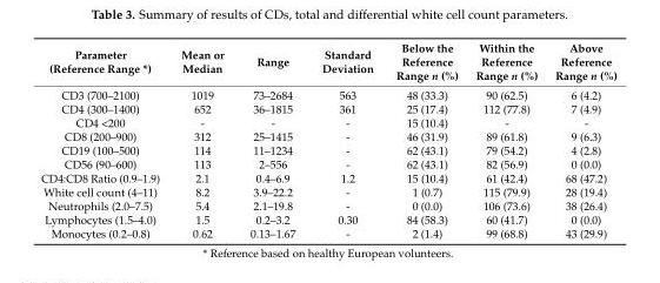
<table><thead><tr><td>Parameter (Reference Range *)</td><td>Mean or Median</td><td>Range</td><td>Standard Deviation</td><td>Below the Reference Range n (%)</td><td>Within the Reference Range n (%)</td><td>Above Reference Range n (%)</td></tr></thead><tbody><tr><td>CD3 (700–2100)</td><td>1019</td><td>73–2684</td><td>563</td><td>48 (33.3)</td><td>90 (62.5)</td><td>6 (4.2)</td></tr><tr><td>CD4 (300–1400)</td><td>652</td><td>36–1815</td><td>361</td><td>25 (17.4)</td><td>112 (77.8)</td><td>7 (4.9)</td></tr><tr><td>CD4 &lt;200</td><td>-</td><td>-</td><td>-</td><td>15 (10.4)</td><td>-</td><td>-</td></tr><tr><td>CD8 (200–900)</td><td>312</td><td>25–1415</td><td>-</td><td>46 (31.9)</td><td>89 (61.8)</td><td>9 (6.3)</td></tr><tr><td>CD19 (100–500)</td><td>114</td><td>11–1234</td><td>-</td><td>62 (43.1)</td><td>79 (54.2)</td><td>4 (2.8)</td></tr><tr><td>CD56 (90–600)</td><td>113</td><td>2–556</td><td>-</td><td>62 (43.1)</td><td>82 (56.9)</td><td>0 (0.0)</td></tr><tr><td>CD4:CD8 Ratio (0.9–1.9)</td><td>2.1</td><td>0.4–6.9</td><td>1.2</td><td>15 (10.4)</td><td>61 (42.4)</td><td>68 (47.2)</td></tr><tr><td>White cell count (4–11)</td><td>8.2</td><td>3.9–22.2</td><td>-</td><td>1 (0.7)</td><td>115 (79.9)</td><td>28 (19.4)</td></tr><tr><td>Neutrophils (2.0–7.5)</td><td>5.4</td><td>2.1–19.8</td><td>-</td><td>0 (0.0)</td><td>106 (73.6)</td><td>38 (26.4)</td></tr><tr><td>Lymphocytes (1.5–4.0)</td><td>1.5</td><td>0.2–3.2</td><td>0.30</td><td>84 (58.3)</td><td>60 (41.7)</td><td>0 (0.0)</td></tr><tr><td>Monocytes (0.2–0.8)</td><td>0.62</td><td>0.13–1.67</td><td>-</td><td>2 (1.4)</td><td>99 (68.8)</td><td>43 (29.9)</td></tr></tbody></table>